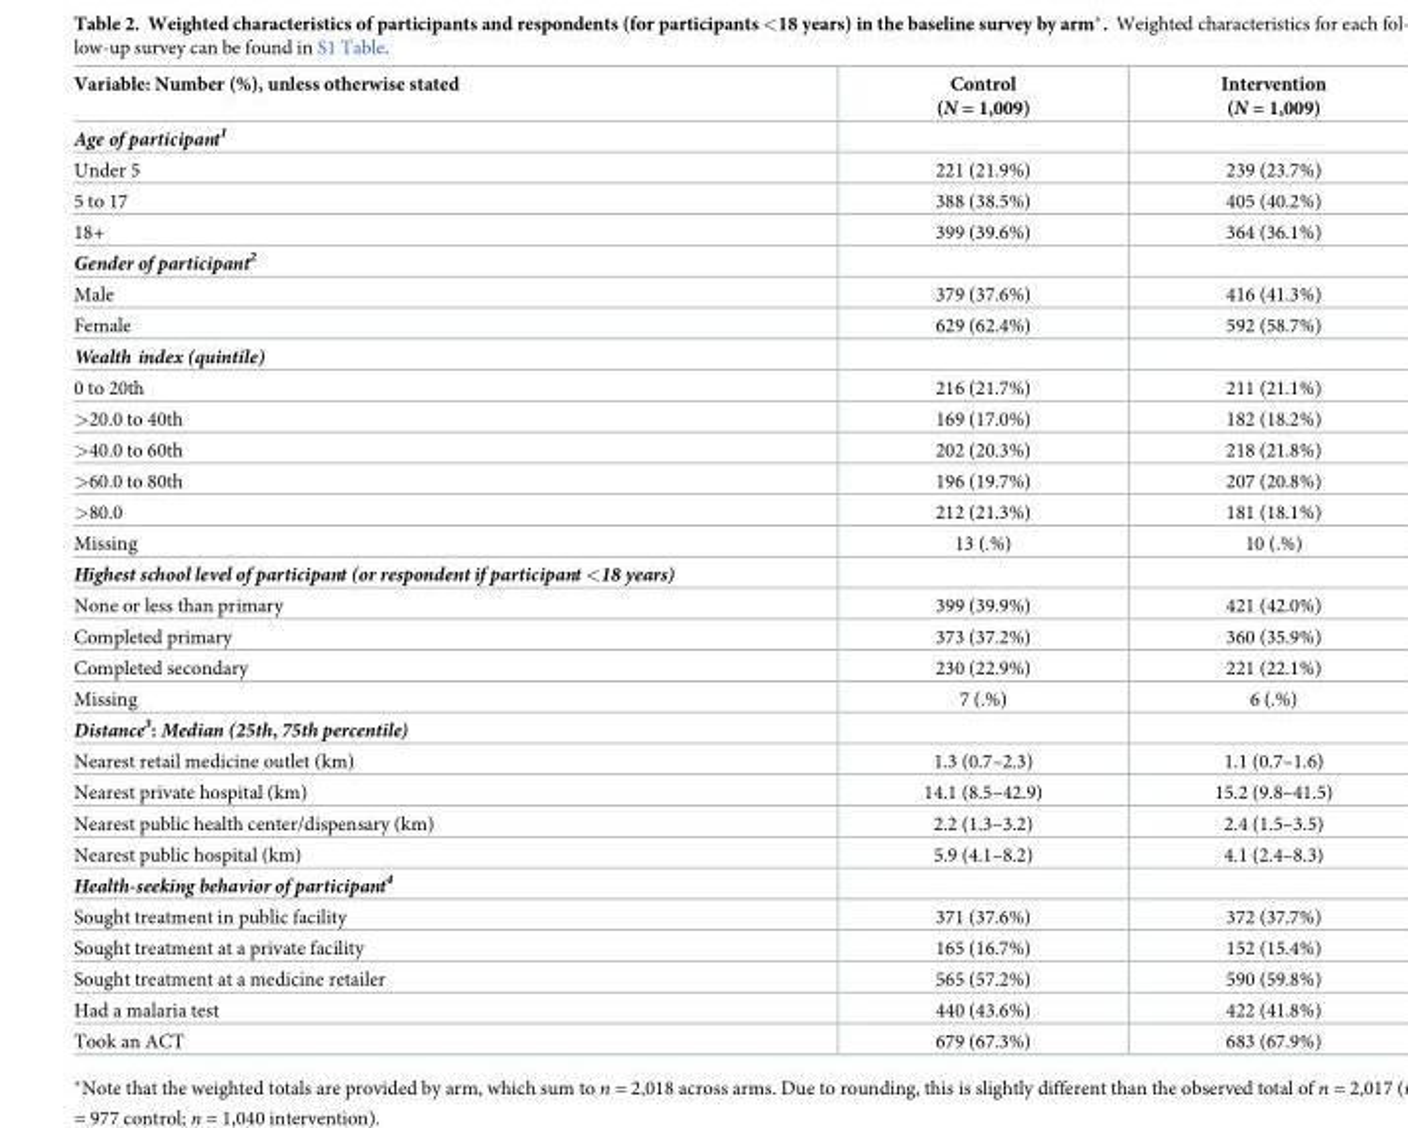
<table><thead><tr><td>Variable: Number (%), unless otherwise stated</td><td>Control (N = 1,009)</td><td>Intervention (N = 1,009)</td></tr></thead><tbody><tr><td colspan="3">Age of participant<sup>1</sup></td></tr><tr><td>Under 5</td><td>221 (21.9%)</td><td>239 (23.7%)</td></tr><tr><td>5 to 17</td><td>388 (38.5%)</td><td>405 (40.2%)</td></tr><tr><td>18+</td><td>399 (39.6%)</td><td>364 (36.1%)</td></tr><tr><td colspan="3">Gender of participant<sup>2</sup></td></tr><tr><td>Male</td><td>379 (37.6%)</td><td>416 (41.3%)</td></tr><tr><td>Female</td><td>629 (62.4%)</td><td>592 (58.7%)</td></tr><tr><td colspan="3">Wealth index (quintile)</td></tr><tr><td>0 to 20th</td><td>216 (21.7%)</td><td>211 (21.1%)</td></tr><tr><td>&gt;20.0 to 40th</td><td>169 (17.0%)</td><td>182 (18.2%)</td></tr><tr><td>&gt;40.0 to 60th</td><td>202 (20.3%)</td><td>218 (21.8%)</td></tr><tr><td>&gt;60.0 to 80th</td><td>196 (19.7%)</td><td>207 (20.8%)</td></tr><tr><td>&gt;80.0</td><td>212 (21.3%)</td><td>181 (18.1%)</td></tr><tr><td>Missing</td><td>13 (.%)</td><td>10 (.%)</td></tr><tr><td colspan="3">Highest school level of participant (or respondent if participant &lt;18 years)</td></tr><tr><td>None or less than primary</td><td>399 (39.9%)</td><td>421 (42.0%)</td></tr><tr><td>Completed primary</td><td>373 (37.2%)</td><td>360 (35.9%)</td></tr><tr><td>Completed secondary</td><td>230 (22.9%)</td><td>221 (22.1%)</td></tr><tr><td>Missing</td><td>7 (.%)</td><td>6 (.%)</td></tr><tr><td colspan="3">Distance<sup>3</sup>: Median (25th, 75th percentile)</td></tr><tr><td>Nearest retail medicine outlet (km)</td><td>1.3 (0.7–2.3)</td><td>1.1 (0.7–1.6)</td></tr><tr><td>Nearest private hospital (km)</td><td>14.1 (8.5–42.9)</td><td>15.2 (9.8–41.5)</td></tr><tr><td>Nearest public health center/dispensary (km)</td><td>2.2 (1.3–3.2)</td><td>2.4 (1.5–3.5)</td></tr><tr><td>Nearest public hospital (km)</td><td>5.9 (4.1–8.2)</td><td>4.1 (2.4–8.3)</td></tr><tr><td colspan="3">Health-seeking behavior of participant<sup>4</sup></td></tr><tr><td>Sought treatment in public facility</td><td>371 (37.6%)</td><td>372 (37.7%)</td></tr><tr><td>Sought treatment at a private facility</td><td>165 (16.7%)</td><td>152 (15.4%)</td></tr><tr><td>Sought treatment at a medicine retailer</td><td>565 (57.2%)</td><td>590 (59.8%)</td></tr><tr><td>Had a malaria test</td><td>440 (43.6%)</td><td>422 (41.8%)</td></tr><tr><td>Took an ACT</td><td>679 (67.3%)</td><td>683 (67.9%)</td></tr></tbody></table>